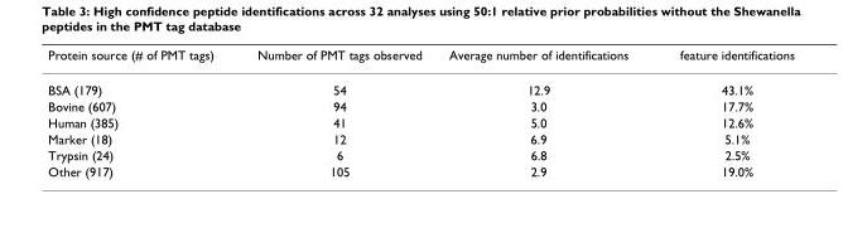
<table><thead><tr><td>Protein source (# of PMT tags)</td><td>Number of PMT tags observed</td><td>Average number of identifications</td><td>feature identifications</td></tr></thead><tbody><tr><td>BSA (179)</td><td>54</td><td>12.9</td><td>43.1%</td></tr><tr><td>Bovine (607)</td><td>94</td><td>3.0</td><td>17.7%</td></tr><tr><td>Human (385)</td><td>41</td><td>5.0</td><td>12.6%</td></tr><tr><td>Marker (18)</td><td>12</td><td>6.9</td><td>5.1%</td></tr><tr><td>Trypsin (24)</td><td>6</td><td>6.8</td><td>2.5%</td></tr><tr><td>Other (917)</td><td>105</td><td>2.9</td><td>19.0%</td></tr></tbody></table>